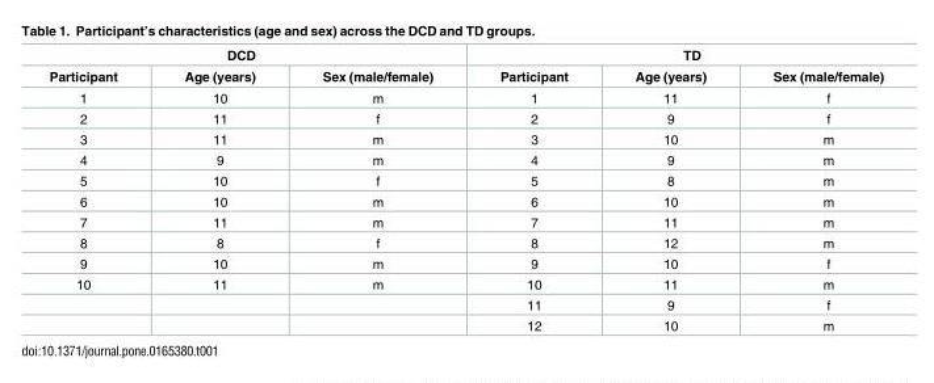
<table><thead><tr><td colspan="3">DCD</td><td colspan="3">TD</td></tr><tr><td>Participant</td><td>Age (years)</td><td>Sex (male/female)</td><td>Participant</td><td>Age (years)</td><td>Sex (male/female)</td></tr></thead><tbody><tr><td>1</td><td>10</td><td>m</td><td>1</td><td>11</td><td>f</td></tr><tr><td>2</td><td>11</td><td>f</td><td>2</td><td>9</td><td>f</td></tr><tr><td>3</td><td>11</td><td>m</td><td>3</td><td>10</td><td>m</td></tr><tr><td>4</td><td>9</td><td>m</td><td>4</td><td>9</td><td>m</td></tr><tr><td>5</td><td>10</td><td>f</td><td>5</td><td>8</td><td>m</td></tr><tr><td>6</td><td>10</td><td>m</td><td>6</td><td>10</td><td>m</td></tr><tr><td>7</td><td>11</td><td>m</td><td>7</td><td>11</td><td>m</td></tr><tr><td>8</td><td>8</td><td>f</td><td>8</td><td>12</td><td>m</td></tr><tr><td>9</td><td>10</td><td>m</td><td>9</td><td>10</td><td>f</td></tr><tr><td rowspan="3">10</td><td>11</td><td>m</td><td>10</td><td>11</td><td>m</td></tr><tr><td></td><td></td><td>11</td><td>9</td><td>f</td></tr><tr><td></td><td></td><td>12</td><td>10</td><td>m</td></tr></tbody></table>